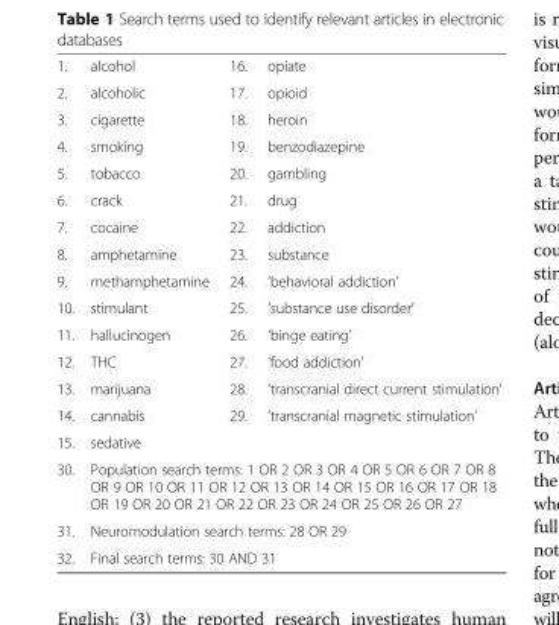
<table><tbody><tr><td>1.</td><td>alcohol</td><td>16.</td><td>opiate</td></tr><tr><td>2.</td><td>alcoholic</td><td>17.</td><td>opioid</td></tr><tr><td>3.</td><td>cigarette</td><td>18.</td><td>heroin</td></tr><tr><td>4.</td><td>smoking</td><td>19.</td><td>benzodiazepine</td></tr><tr><td>5.</td><td>tobacco</td><td>20.</td><td>gambling</td></tr><tr><td>6.</td><td>crack</td><td>21.</td><td>drug</td></tr><tr><td>7.</td><td>cocaine</td><td>22.</td><td>addiction</td></tr><tr><td>8.</td><td>amphetamine</td><td>23.</td><td>substance</td></tr><tr><td>9.</td><td>methamphetamine</td><td>24.</td><td>‘behavioral addiction’</td></tr><tr><td>10.</td><td>stimulant</td><td>25.</td><td>‘substance use disorder’</td></tr><tr><td>11.</td><td>hallucinogen</td><td>26.</td><td>‘binge eating’</td></tr><tr><td>12.</td><td>THC</td><td>27.</td><td>‘food addiction’</td></tr><tr><td>13.</td><td>marijuana</td><td>28.</td><td>‘transcranial direct current stimulation’</td></tr><tr><td>14.</td><td>cannabis</td><td>29.</td><td>‘transcranial magnetic stimulation’</td></tr><tr><td>15.</td><td>sedative</td><td></td><td></td></tr><tr><td>30.</td><td colspan="3">Population search terms: 1 OR 2 OR 3 OR 4 OR 5 OR 6 OR 7 OR 8 OR 9 OR 10 OR 11 OR 12 OR 13 OR 14 OR 15 OR 16 OR 17 OR 18 OR 19 OR 20 OR 21 OR 22 OR 23 OR 24 OR 25 OR 26 OR 27</td></tr><tr><td>31.</td><td colspan="3">Neuromodulation search terms: 28 OR 29</td></tr><tr><td>32.</td><td colspan="3">Final search terms: 30 AND 31</td></tr></tbody></table>